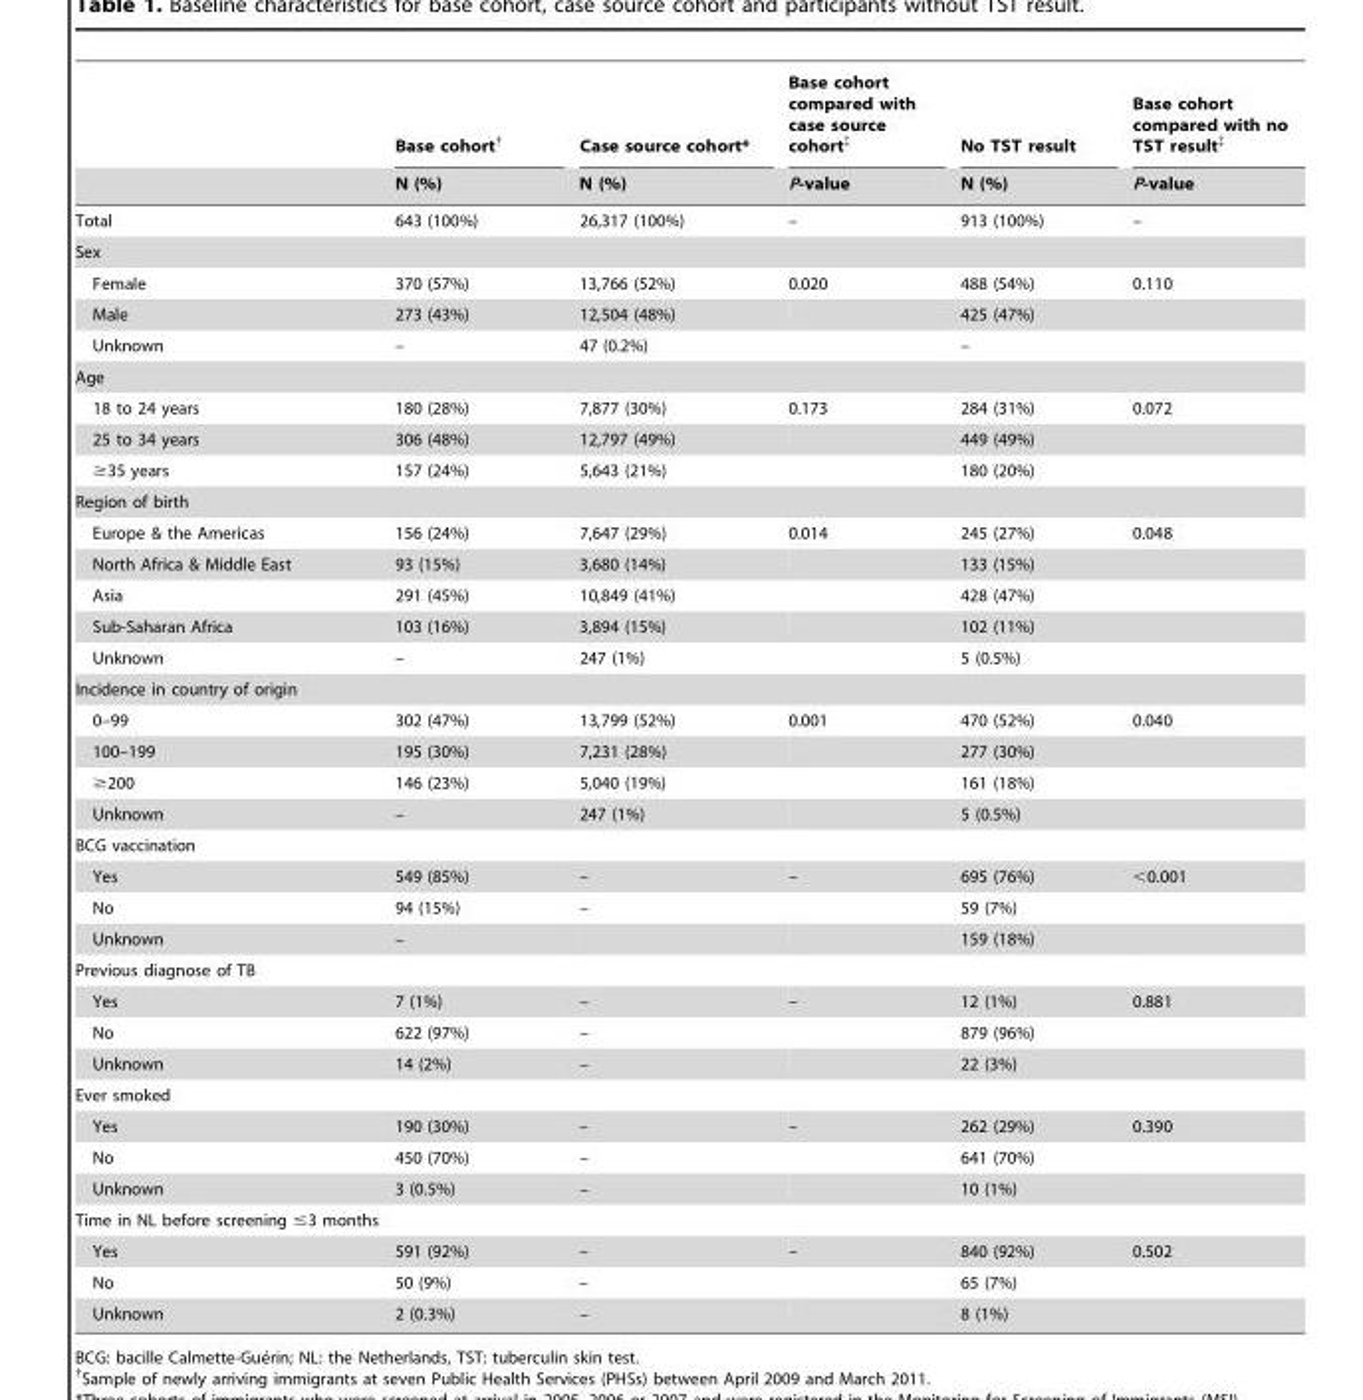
<table><thead><tr><td rowspan="2"></td><td rowspan="2">Base cohort† N (%)</td><td rowspan="2">Case source cohort* N (%)</td><td rowspan="2">Base cohort compared with case source cohort‡ P-value</td><td rowspan="2">No TST result N (%)</td><td rowspan="2">Base cohort compared with no TST result‡ P-value</td></tr><tr></tr></thead><tbody><tr><td>Total</td><td>643 (100%)</td><td>26,317 (100%)</td><td>–</td><td>913 (100%)</td><td>–</td></tr><tr><td colspan="6">Sex</td></tr><tr><td>Female</td><td>370 (57%)</td><td>13,766 (52%)</td><td>0.020</td><td>488 (54%)</td><td>0.110</td></tr><tr><td>Male</td><td>273 (43%)</td><td>12,504 (48%)</td><td></td><td>425 (47%)</td><td></td></tr><tr><td>Unknown</td><td>–</td><td>47 (0.2%)</td><td></td><td>–</td><td></td></tr><tr><td colspan="6">Age</td></tr><tr><td>18 to 24 years</td><td>180 (28%)</td><td>7,877 (30%)</td><td>0.173</td><td>284 (31%)</td><td>0.072</td></tr><tr><td>25 to 34 years</td><td>306 (48%)</td><td>12,797 (49%)</td><td></td><td>449 (49%)</td><td></td></tr><tr><td>≥35 years</td><td>157 (24%)</td><td>5,643 (21%)</td><td></td><td>180 (20%)</td><td></td></tr><tr><td colspan="6">Region of birth</td></tr><tr><td>Europe &amp; the Americas</td><td>156 (24%)</td><td>7,647 (29%)</td><td>0.014</td><td>245 (27%)</td><td>0.048</td></tr><tr><td>North Africa &amp; Middle East</td><td>93 (15%)</td><td>3,680 (14%)</td><td></td><td>133 (15%)</td><td></td></tr><tr><td>Asia</td><td>291 (45%)</td><td>10,849 (41%)</td><td></td><td>428 (47%)</td><td></td></tr><tr><td>Sub-Saharan Africa</td><td>103 (16%)</td><td>3,894 (15%)</td><td></td><td>102 (11%)</td><td></td></tr><tr><td>Unknown</td><td>–</td><td>247 (1%)</td><td></td><td>5 (0.5%)</td><td></td></tr><tr><td colspan="6">Incidence in country of origin</td></tr><tr><td>0–99</td><td>302 (47%)</td><td>13,799 (52%)</td><td>0.001</td><td>470 (52%)</td><td>0.040</td></tr><tr><td>100–199</td><td>195 (30%)</td><td>7,231 (28%)</td><td></td><td>277 (30%)</td><td></td></tr><tr><td>≥200</td><td>146 (23%)</td><td>5,040 (19%)</td><td></td><td>161 (18%)</td><td></td></tr><tr><td>Unknown</td><td>–</td><td>247 (1%)</td><td></td><td>5 (0.5%)</td><td></td></tr><tr><td colspan="6">BCG vaccination</td></tr><tr><td>Yes</td><td>549 (85%)</td><td>–</td><td>–</td><td>695 (76%)</td><td>&lt;0.001</td></tr><tr><td>No</td><td>94 (15%)</td><td>–</td><td></td><td>59 (7%)</td><td></td></tr><tr><td>Unknown</td><td>–</td><td></td><td></td><td>159 (18%)</td><td></td></tr><tr><td colspan="6">Previous diagnose of TB</td></tr><tr><td>Yes</td><td>7 (1%)</td><td>–</td><td>–</td><td>12 (1%)</td><td>0.881</td></tr><tr><td>No</td><td>622 (97%)</td><td>–</td><td></td><td>879 (96%)</td><td></td></tr><tr><td>Unknown</td><td>14 (2%)</td><td>–</td><td></td><td>22 (3%)</td><td></td></tr><tr><td colspan="6">Ever smoked</td></tr><tr><td>Yes</td><td>190 (30%)</td><td>–</td><td>–</td><td>262 (29%)</td><td>0.390</td></tr><tr><td>No</td><td>450 (70%)</td><td>–</td><td></td><td>641 (70%)</td><td></td></tr><tr><td>Unknown</td><td>3 (0.5%)</td><td>–</td><td></td><td>10 (1%)</td><td></td></tr><tr><td colspan="6">Time in NL before screening ≤3 months</td></tr><tr><td>Yes</td><td>591 (92%)</td><td>–</td><td>–</td><td>840 (92%)</td><td>0.502</td></tr><tr><td>No</td><td>50 (9%)</td><td>–</td><td></td><td>65 (7%)</td><td></td></tr><tr><td>Unknown</td><td>2 (0.3%)</td><td>–</td><td></td><td>8 (1%)</td><td></td></tr></tbody></table>